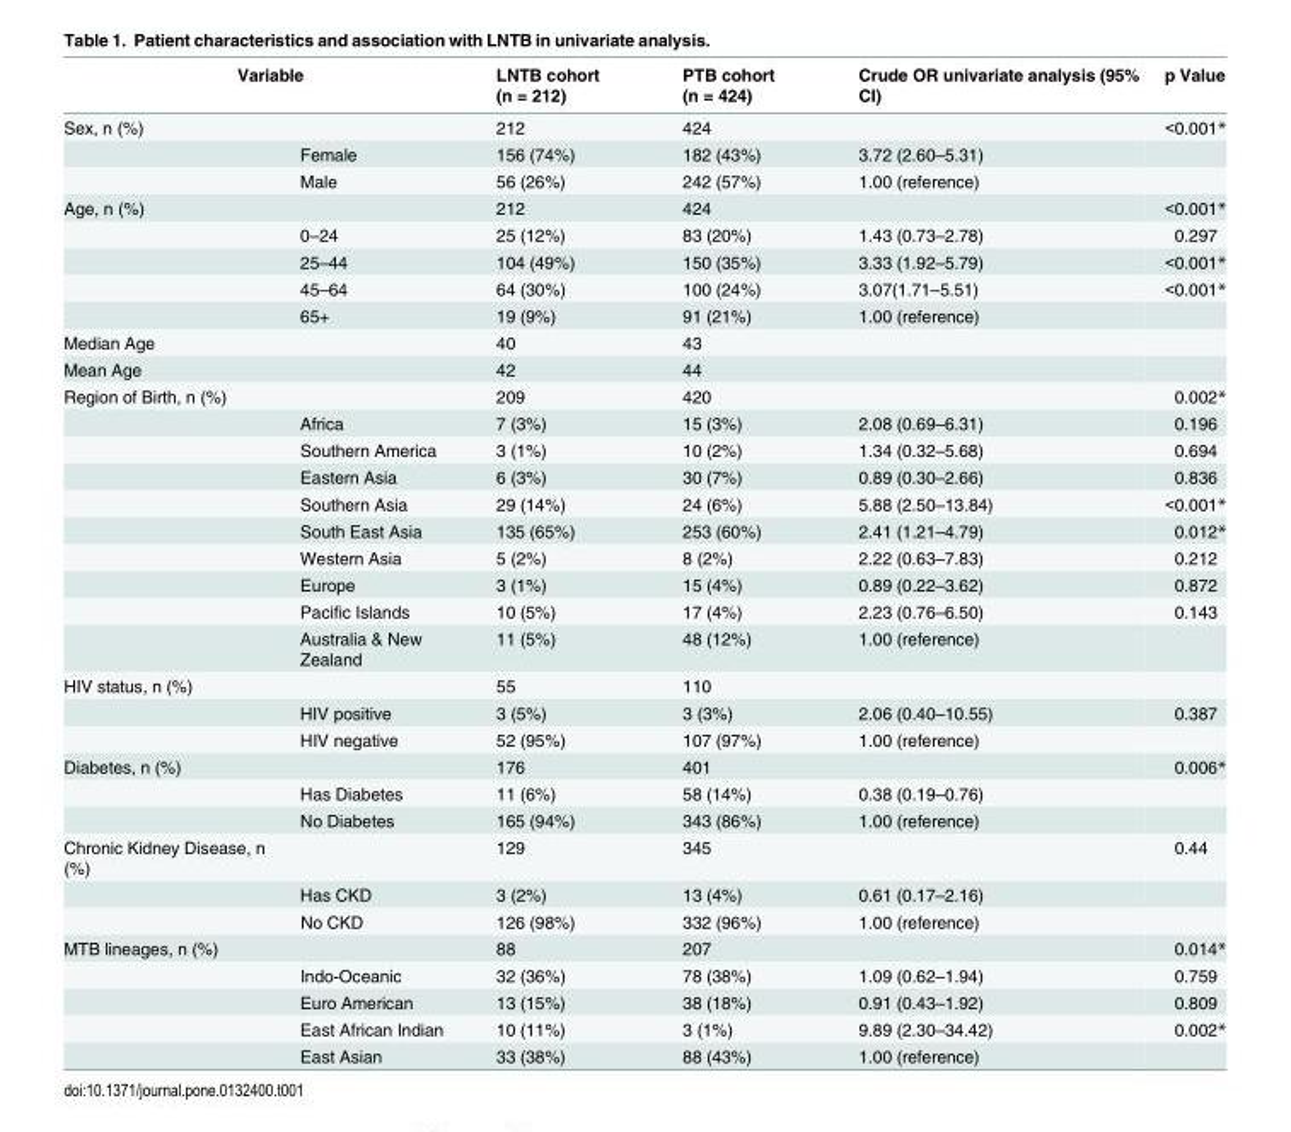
<table><thead><tr><td colspan="2">Variable</td><td rowspan="2">LNTB cohort (n = 212) 212</td><td rowspan="2">PTB cohort (n = 424) 424</td><td rowspan="2">Crude OR univariate analysis (95% CI)</td><td rowspan="2">p Value &lt;0.001*</td></tr><tr><td>Sex, n (%)</td><td></td></tr></thead><tbody><tr><td></td><td>Female</td><td>156 (74%)</td><td>182 (43%)</td><td>3.72 (2.60–5.31)</td><td></td></tr><tr><td></td><td>Male</td><td>56 (26%)</td><td>242 (57%)</td><td>1.00 (reference)</td><td></td></tr><tr><td rowspan="5">Age, n (%)</td><td></td><td>212</td><td>424</td><td></td><td>&lt;0.001*</td></tr><tr><td>0–24</td><td>25 (12%)</td><td>83 (20%)</td><td>1.43 (0.73–2.78)</td><td>0.297</td></tr><tr><td>25–44</td><td>104 (49%)</td><td>150 (35%)</td><td>3.33 (1.92–5.79)</td><td>&lt;0.001*</td></tr><tr><td>45–64</td><td>64 (30%)</td><td>100 (24%)</td><td>3.07(1.71–5.51)</td><td>&lt;0.001*</td></tr><tr><td>65+</td><td>19 (9%)</td><td>91 (21%)</td><td>1.00 (reference)</td><td></td></tr><tr><td>Median Age</td><td></td><td>40</td><td>43</td><td></td><td></td></tr><tr><td>Mean Age</td><td></td><td>42</td><td>44</td><td></td><td></td></tr><tr><td rowspan="10">Region of Birth, n (%)</td><td></td><td>209</td><td>420</td><td></td><td>0.002*</td></tr><tr><td>Africa</td><td>7 (3%)</td><td>15 (3%)</td><td>2.08 (0.69–6.31)</td><td>0.196</td></tr><tr><td>Southern America</td><td>3 (1%)</td><td>10 (2%)</td><td>1.34 (0.32–5.68)</td><td>0.694</td></tr><tr><td>Eastern Asia</td><td>6 (3%)</td><td>30 (7%)</td><td>0.89 (0.30–2.66)</td><td>0.836</td></tr><tr><td>Southern Asia</td><td>29 (14%)</td><td>24 (6%)</td><td>5.88 (2.50–13.84)</td><td>&lt;0.001*</td></tr><tr><td>South East Asia</td><td>135 (65%)</td><td>253 (60%)</td><td>2.41 (1.21–4.79)</td><td>0.012*</td></tr><tr><td>Western Asia</td><td>5 (2%)</td><td>8 (2%)</td><td>2.22 (0.63–7.83)</td><td>0.212</td></tr><tr><td>Europe</td><td>3 (1%)</td><td>15 (4%)</td><td>0.89 (0.22–3.62)</td><td>0.872</td></tr><tr><td>Pacific Islands</td><td>10 (5%)</td><td>17 (4%)</td><td>2.23 (0.76–6.50)</td><td>0.143</td></tr><tr><td>Australia &amp; New Zealand</td><td>11 (5%)</td><td>48 (12%)</td><td>1.00 (reference)</td><td></td></tr><tr><td rowspan="3">HIV status, n (%)</td><td></td><td>55</td><td>110</td><td></td><td></td></tr><tr><td>HIV positive</td><td>3 (5%)</td><td>3 (3%)</td><td>2.06 (0.40–10.55)</td><td>0.387</td></tr><tr><td>HIV negative</td><td>52 (95%)</td><td>107 (97%)</td><td>1.00 (reference)</td><td></td></tr><tr><td rowspan="3">Diabetes, n (%)</td><td></td><td>176</td><td>401</td><td></td><td>0.006*</td></tr><tr><td>Has Diabetes</td><td>11 (6%)</td><td>58 (14%)</td><td>0.38 (0.19–0.76)</td><td></td></tr><tr><td>No Diabetes</td><td>165 (94%)</td><td>343 (86%)</td><td>1.00 (reference)</td><td></td></tr><tr><td rowspan="3">Chronic Kidney Disease, n (%)</td><td></td><td>129</td><td>345</td><td></td><td>0.44</td></tr><tr><td>Has CKD</td><td>3 (2%)</td><td>13 (4%)</td><td>0.61 (0.17–2.16)</td><td></td></tr><tr><td>No CKD</td><td>126 (98%)</td><td>332 (96%)</td><td>1.00 (reference)</td><td></td></tr><tr><td rowspan="5">MTB lineages, n (%)</td><td></td><td>88</td><td>207</td><td></td><td>0.014*</td></tr><tr><td>Indo-Oceanic</td><td>32 (36%)</td><td>78 (38%)</td><td>1.09 (0.62–1.94)</td><td>0.759</td></tr><tr><td>Euro American</td><td>13 (15%)</td><td>38 (18%)</td><td>0.91 (0.43–1.92)</td><td>0.809</td></tr><tr><td>East African Indian</td><td>10 (11%)</td><td>3 (1%)</td><td>9.89 (2.30–34.42)</td><td>0.002*</td></tr><tr><td>East Asian</td><td>33 (38%)</td><td>88 (43%)</td><td>1.00 (reference)</td><td></td></tr></tbody></table>